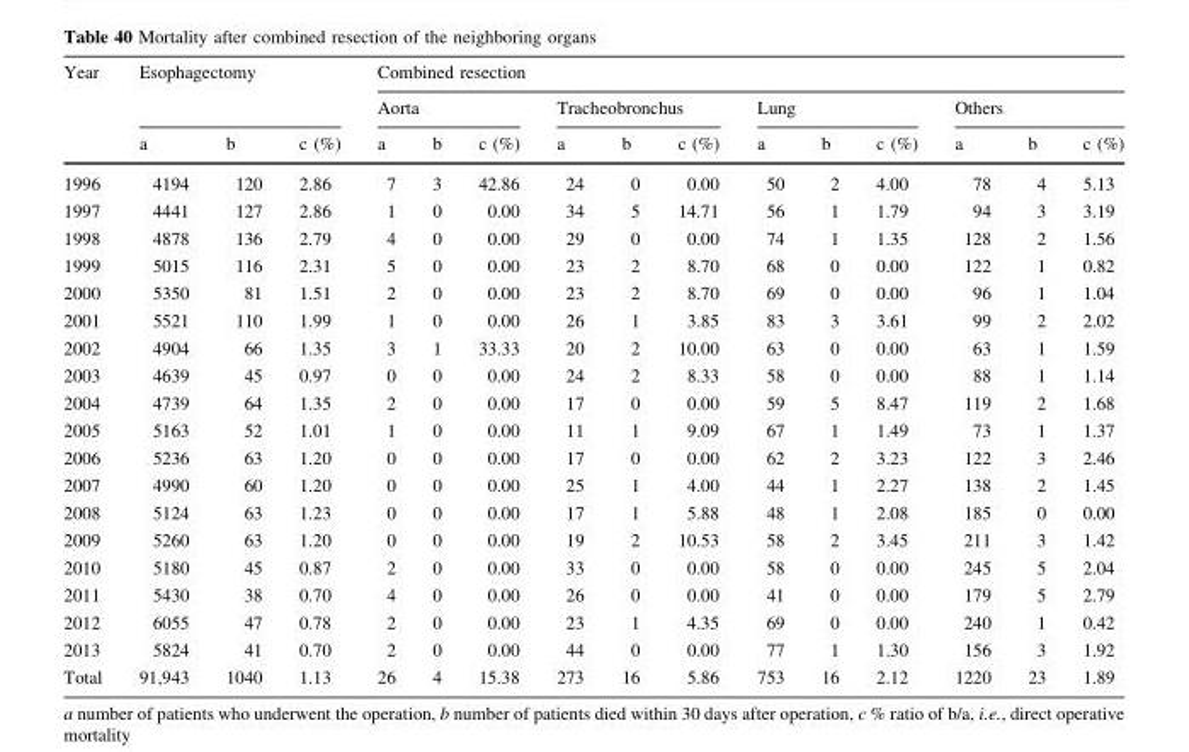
<table><thead><tr><td rowspan="3">Year</td><td rowspan="2" colspan="3">Esophagectomy</td><td colspan="12">Combined resection</td></tr><tr><td colspan="3">Aorta</td><td colspan="3">Tracheobronchus</td><td colspan="3">Lung</td><td colspan="3">Others</td></tr><tr><td>a</td><td>b</td><td>c (%)</td><td>a</td><td>b</td><td>c (%)</td><td>a</td><td>b</td><td>c (%)</td><td>a</td><td>b</td><td>c (%)</td><td>a</td><td>b</td><td>c (%)</td></tr></thead><tbody><tr><td>1996</td><td>4194</td><td>120</td><td>2.86</td><td>7</td><td>3</td><td>42.86</td><td>24</td><td>0</td><td>0.00</td><td>50</td><td>2</td><td>4.00</td><td>78</td><td>4</td><td>5.13</td></tr><tr><td>1997</td><td>4441</td><td>127</td><td>2.86</td><td>1</td><td>0</td><td>0.00</td><td>34</td><td>5</td><td>14.71</td><td>56</td><td>1</td><td>1.79</td><td>94</td><td>3</td><td>3.19</td></tr><tr><td>1998</td><td>4878</td><td>136</td><td>2.79</td><td>4</td><td>0</td><td>0.00</td><td>29</td><td>0</td><td>0.00</td><td>74</td><td>1</td><td>1.35</td><td>128</td><td>2</td><td>1.56</td></tr><tr><td>1999</td><td>5015</td><td>116</td><td>2.31</td><td>5</td><td>0</td><td>0.00</td><td>23</td><td>2</td><td>8.70</td><td>68</td><td>0</td><td>0.00</td><td>122</td><td>1</td><td>0.82</td></tr><tr><td>2000</td><td>5350</td><td>81</td><td>1.51</td><td>2</td><td>0</td><td>0.00</td><td>23</td><td>2</td><td>8.70</td><td>69</td><td>0</td><td>0.00</td><td>96</td><td>1</td><td>1.04</td></tr><tr><td>2001</td><td>5521</td><td>110</td><td>1.99</td><td>1</td><td>0</td><td>0.00</td><td>26</td><td>1</td><td>3.85</td><td>83</td><td>3</td><td>3.61</td><td>99</td><td>2</td><td>2.02</td></tr><tr><td>2002</td><td>4904</td><td>66</td><td>1.35</td><td>3</td><td>1</td><td>33.33</td><td>20</td><td>2</td><td>10.00</td><td>63</td><td>0</td><td>0.00</td><td>63</td><td>1</td><td>1.59</td></tr><tr><td>2003</td><td>4639</td><td>45</td><td>0.97</td><td>0</td><td>0</td><td>0.00</td><td>24</td><td>2</td><td>8.33</td><td>58</td><td>0</td><td>0.00</td><td>88</td><td>1</td><td>1.14</td></tr><tr><td>2004</td><td>4739</td><td>64</td><td>1.35</td><td>2</td><td>0</td><td>0.00</td><td>17</td><td>0</td><td>0.00</td><td>59</td><td>5</td><td>8.47</td><td>119</td><td>2</td><td>1.68</td></tr><tr><td>2005</td><td>5163</td><td>52</td><td>1.01</td><td>1</td><td>0</td><td>0.00</td><td>11</td><td>1</td><td>9.09</td><td>67</td><td>1</td><td>1.49</td><td>73</td><td>1</td><td>1.37</td></tr><tr><td>2006</td><td>5236</td><td>63</td><td>1.20</td><td>0</td><td>0</td><td>0.00</td><td>17</td><td>0</td><td>0.00</td><td>62</td><td>2</td><td>3.23</td><td>122</td><td>3</td><td>2.46</td></tr><tr><td>2007</td><td>4990</td><td>60</td><td>1.20</td><td>0</td><td>0</td><td>0.00</td><td>25</td><td>1</td><td>4.00</td><td>44</td><td>1</td><td>2.27</td><td>138</td><td>2</td><td>1.45</td></tr><tr><td>2008</td><td>5124</td><td>63</td><td>1.23</td><td>0</td><td>0</td><td>0.00</td><td>17</td><td>1</td><td>5.88</td><td>48</td><td>1</td><td>2.08</td><td>185</td><td>0</td><td>0.00</td></tr><tr><td>2009</td><td>5260</td><td>63</td><td>1.20</td><td>0</td><td>0</td><td>0.00</td><td>19</td><td>2</td><td>10.53</td><td>58</td><td>2</td><td>3.45</td><td>211</td><td>3</td><td>1.42</td></tr><tr><td>2010</td><td>5180</td><td>45</td><td>0.87</td><td>2</td><td>0</td><td>0.00</td><td>33</td><td>0</td><td>0.00</td><td>58</td><td>0</td><td>0.00</td><td>245</td><td>5</td><td>2.04</td></tr><tr><td>2011</td><td>5430</td><td>38</td><td>0.70</td><td>4</td><td>0</td><td>0.00</td><td>26</td><td>0</td><td>0.00</td><td>41</td><td>0</td><td>0.00</td><td>179</td><td>5</td><td>2.79</td></tr><tr><td>2012</td><td>6055</td><td>47</td><td>0.78</td><td>2</td><td>0</td><td>0.00</td><td>23</td><td>1</td><td>4.35</td><td>69</td><td>0</td><td>0.00</td><td>240</td><td>1</td><td>0.42</td></tr><tr><td>2013</td><td>5824</td><td>41</td><td>0.70</td><td>2</td><td>0</td><td>0.00</td><td>44</td><td>0</td><td>0.00</td><td>77</td><td>1</td><td>1.30</td><td>156</td><td>3</td><td>1.92</td></tr><tr><td>Total</td><td>91,943</td><td>1040</td><td>1.13</td><td>26</td><td>4</td><td>15.38</td><td>273</td><td>16</td><td>5.86</td><td>753</td><td>16</td><td>2.12</td><td>1220</td><td>23</td><td>1.89</td></tr></tbody></table>